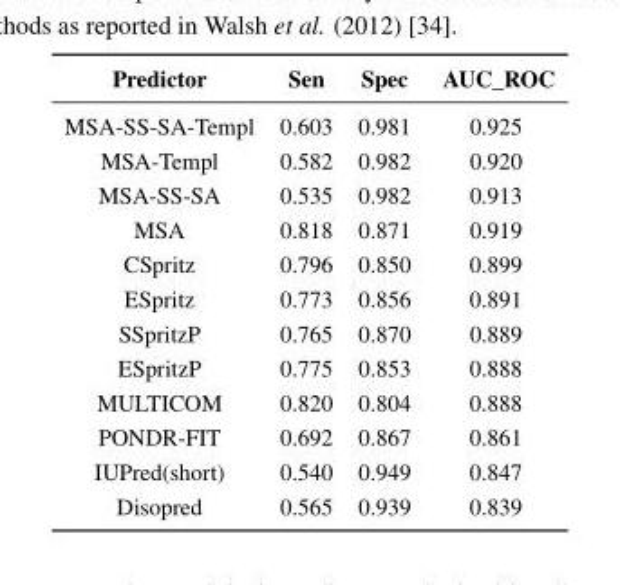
<table><thead><tr><td>Predictor</td><td>Sen</td><td>Spec</td><td>AUC_ROC</td></tr></thead><tbody><tr><td>MSA-SS-SA-Templ</td><td>0.603</td><td>0.981</td><td>0.925</td></tr><tr><td>MSA-Templ</td><td>0.582</td><td>0.982</td><td>0.920</td></tr><tr><td>MSA-SS-SA</td><td>0.535</td><td>0.982</td><td>0.913</td></tr><tr><td>MSA</td><td>0.818</td><td>0.871</td><td>0.919</td></tr><tr><td>CSpritz</td><td>0.796</td><td>0.850</td><td>0.899</td></tr><tr><td>ESpritz</td><td>0.773</td><td>0.856</td><td>0.891</td></tr><tr><td>SSpritzP</td><td>0.765</td><td>0.870</td><td>0.889</td></tr><tr><td>ESpritzP</td><td>0.775</td><td>0.853</td><td>0.888</td></tr><tr><td>MULTICOM</td><td>0.820</td><td>0.804</td><td>0.888</td></tr><tr><td>PONDR-FIT</td><td>0.692</td><td>0.867</td><td>0.861</td></tr><tr><td>IUPred(short)</td><td>0.540</td><td>0.949</td><td>0.847</td></tr><tr><td>Disopred</td><td>0.565</td><td>0.939</td><td>0.839</td></tr></tbody></table>